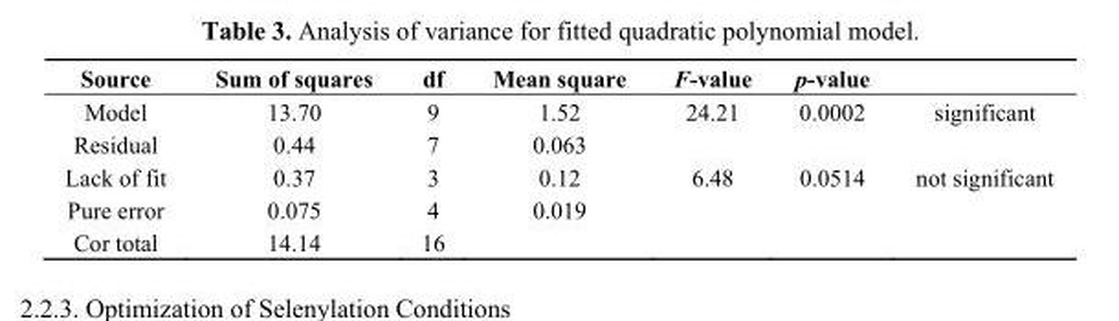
<table><thead><tr><td>Source</td><td>Sum of squares</td><td>df</td><td>Mean square</td><td>F-value</td><td>p-value</td><td></td></tr></thead><tbody><tr><td>Model</td><td>13.70</td><td>9</td><td>1.52</td><td>24.21</td><td>0.0002</td><td>significant</td></tr><tr><td>Residual</td><td>0.44</td><td>7</td><td>0.063</td><td></td><td></td><td></td></tr><tr><td>Lack of fit</td><td>0.37</td><td>3</td><td>0.12</td><td>6.48</td><td>0.0514</td><td>not significant</td></tr><tr><td>Pure error</td><td>0.075</td><td>4</td><td>0.019</td><td></td><td></td><td></td></tr><tr><td>Cor total</td><td>14.14</td><td>16</td><td></td><td></td><td></td><td></td></tr></tbody></table>